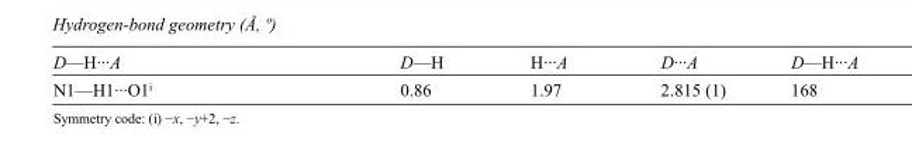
<table><tbody><tr><td>D—H···A</td><td>D—H</td><td>H···A</td><td>D···A</td><td>D—H···A</td></tr><tr><td>N1—H1···O1<sup>i</sup></td><td>0.86</td><td>1.97</td><td>2.815 (1)</td><td>168</td></tr></tbody></table>